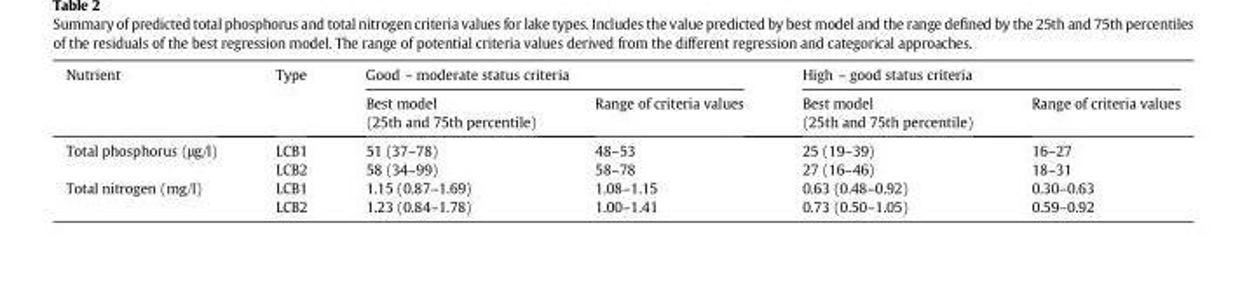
<table><thead><tr><td rowspan="2">Nutrient</td><td rowspan="2">Type</td><td colspan="2">Good – moderate status criteria</td><td colspan="2">High – good status criteria</td></tr><tr><td>Best model (25th and 75th percentile)</td><td>Range of criteria values</td><td>Best model (25th and 75th percentile)</td><td>Range of criteria values</td></tr></thead><tbody><tr><td rowspan="2">Total phosphorus (μg/l)</td><td>LCB1</td><td>51 (37–78)</td><td>48–53</td><td>25 (19–39)</td><td>16–27</td></tr><tr><td>LCB2</td><td>58 (34–99)</td><td>58–78</td><td>27 (16–46)</td><td>18–31</td></tr><tr><td rowspan="2">Total nitrogen (mg/l)</td><td>LCB1</td><td>1.15 (0.87–1.69)</td><td>1.08–1.15</td><td>0.63 (0.48–0.92)</td><td>0.30–0.63</td></tr><tr><td>LCB2</td><td>1.23 (0.84–1.78)</td><td>1.00–1.41</td><td>0.73 (0.50–1.05)</td><td>0.59–0.92</td></tr></tbody></table>